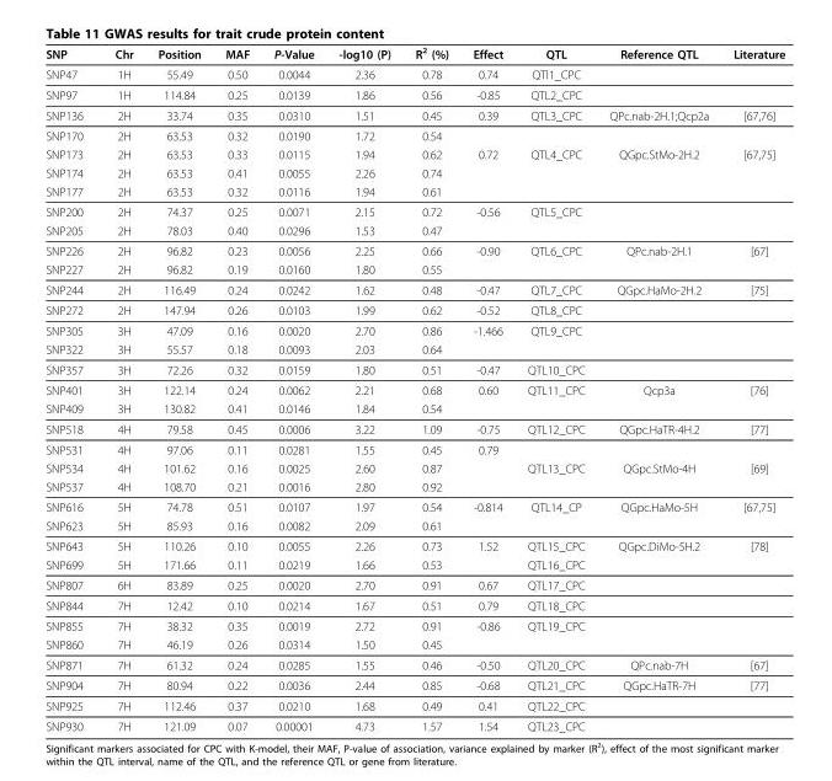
<table><thead><tr><td>SNP</td><td>Chr</td><td>Position</td><td>MAF</td><td>P-Value</td><td>-log10 (P)</td><td>R<sup>2</sup> (%)</td><td>Effect</td><td>QTL</td><td>Reference QTL</td><td>Literature</td></tr></thead><tbody><tr><td>SNP47</td><td>1H</td><td>55.49</td><td>0.50</td><td>0.0044</td><td>2.36</td><td>0.78</td><td>0.74</td><td>QTl1_CPC</td><td></td><td></td></tr><tr><td>SNP97</td><td>1H</td><td>114.84</td><td>0.25</td><td>0.0139</td><td>1.86</td><td>0.56</td><td>-0.85</td><td>QTL2_CPC</td><td></td><td></td></tr><tr><td>SNP136</td><td>2H</td><td>33.74</td><td>0.35</td><td>0.0310</td><td>1.51</td><td>0.45</td><td>0.39</td><td>QTL3_CPC</td><td>QPc.nab-2H.1;Qcp2a</td><td>[67,76]</td></tr><tr><td>SNP170</td><td>2H</td><td>63.53</td><td>0.32</td><td>0.0190</td><td>1.72</td><td>0.54</td><td></td><td></td><td></td><td></td></tr><tr><td>SNP173</td><td>2H</td><td>63.53</td><td>0.33</td><td>0.0115</td><td>1.94</td><td>0.62</td><td>0.72</td><td>QTL4_CPC</td><td>QGpc.StMo-2H.2</td><td>[67,75]</td></tr><tr><td>SNP174</td><td>2H</td><td>63.53</td><td>0.41</td><td>0.0055</td><td>2.26</td><td>0.74</td><td></td><td></td><td></td><td></td></tr><tr><td>SNP177</td><td>2H</td><td>63.53</td><td>0.32</td><td>0.0116</td><td>1.94</td><td>0.61</td><td></td><td></td><td></td><td></td></tr><tr><td>SNP200</td><td>2H</td><td>74.37</td><td>0.25</td><td>0.0071</td><td>2.15</td><td>0.72</td><td>-0.56</td><td>QTL5_CPC</td><td></td><td></td></tr><tr><td>SNP205</td><td>2H</td><td>78.03</td><td>0.40</td><td>0.0296</td><td>1.53</td><td>0.47</td><td></td><td></td><td></td><td></td></tr><tr><td>SNP226</td><td>2H</td><td>96.82</td><td>0.23</td><td>0.0056</td><td>2.25</td><td>0.66</td><td>-0.90</td><td>QTL6_CPC</td><td>QPc.nab-2H.1</td><td>[67]</td></tr><tr><td>SNP227</td><td>2H</td><td>96.82</td><td>0.19</td><td>0.0160</td><td>1.80</td><td>0.55</td><td></td><td></td><td></td><td></td></tr><tr><td>SNP244</td><td>2H</td><td>116.49</td><td>0.24</td><td>0.0242</td><td>1.62</td><td>0.48</td><td>-0.47</td><td>QTL7_CPC</td><td>QGpc.HaMo-2H.2</td><td>[75]</td></tr><tr><td>SNP272</td><td>2H</td><td>147.94</td><td>0.26</td><td>0.0103</td><td>1.99</td><td>0.62</td><td>-0.52</td><td>QTL8_CPC</td><td></td><td></td></tr><tr><td>SNP305</td><td>3H</td><td>47.09</td><td>0.16</td><td>0.0020</td><td>2.70</td><td>0.86</td><td>-1.466</td><td>QTL9_CPC</td><td></td><td></td></tr><tr><td>SNP322</td><td>3H</td><td>55.57</td><td>0.18</td><td>0.0093</td><td>2.03</td><td>0.64</td><td></td><td></td><td></td><td></td></tr><tr><td>SNP357</td><td>3H</td><td>72.26</td><td>0.32</td><td>0.0159</td><td>1.80</td><td>0.51</td><td>-0.47</td><td>QTL10_CPC</td><td></td><td></td></tr><tr><td>SNP401</td><td>3H</td><td>122.14</td><td>0.24</td><td>0.0062</td><td>2.21</td><td>0.68</td><td>0.60</td><td>QTL11_CPC</td><td>Qcp3a</td><td>[76]</td></tr><tr><td>SNP409</td><td>3H</td><td>130.82</td><td>0.41</td><td>0.0146</td><td>1.84</td><td>0.54</td><td></td><td></td><td></td><td></td></tr><tr><td>SNP518</td><td>4H</td><td>79.58</td><td>0.45</td><td>0.0006</td><td>3.22</td><td>1.09</td><td>-0.75</td><td>QTL12_CPC</td><td>QGpc.HaTR-4H.2</td><td>[77]</td></tr><tr><td>SNP531</td><td>4H</td><td>97.06</td><td>0.11</td><td>0.0281</td><td>1.55</td><td>0.45</td><td>0.79</td><td></td><td></td><td></td></tr><tr><td>SNP534</td><td>4H</td><td>101.62</td><td>0.16</td><td>0.0025</td><td>2.60</td><td>0.87</td><td></td><td>QTL13_CPC</td><td>QGpc.StMo-4H</td><td>[69]</td></tr><tr><td>SNP537</td><td>4H</td><td>108.70</td><td>0.21</td><td>0.0016</td><td>2.80</td><td>0.92</td><td></td><td></td><td></td><td></td></tr><tr><td>SNP616</td><td>5H</td><td>74.78</td><td>0.51</td><td>0.0107</td><td>1.97</td><td>0.54</td><td>-0.814</td><td>QTL14_CP</td><td>QGpc.HaMo-5H</td><td>[67,75]</td></tr><tr><td>SNP623</td><td>5H</td><td>85.93</td><td>0.16</td><td>0.0082</td><td>2.09</td><td>0.61</td><td></td><td></td><td></td><td></td></tr><tr><td>SNP643</td><td>5H</td><td>110.26</td><td>0.10</td><td>0.0055</td><td>2.26</td><td>0.73</td><td>1.52</td><td>QTL15_CPC</td><td>QGpc.DiMo-5H.2</td><td>[78]</td></tr><tr><td>SNP699</td><td>5H</td><td>171.66</td><td>0.11</td><td>0.0219</td><td>1.66</td><td>0.53</td><td></td><td>QTL16_CPC</td><td></td><td></td></tr><tr><td>SNP807</td><td>6H</td><td>83.89</td><td>0.25</td><td>0.0020</td><td>2.70</td><td>0.91</td><td>0.67</td><td>QTL17_CPC</td><td></td><td></td></tr><tr><td>SNP844</td><td>7H</td><td>12.42</td><td>0.10</td><td>0.0214</td><td>1.67</td><td>0.51</td><td>0.79</td><td>QTL18_CPC</td><td></td><td></td></tr><tr><td>SNP855</td><td>7H</td><td>38.32</td><td>0.35</td><td>0.0019</td><td>2.72</td><td>0.91</td><td>-0.86</td><td>QTL19_CPC</td><td></td><td></td></tr><tr><td>SNP860</td><td>7H</td><td>46.19</td><td>0.26</td><td>0.0314</td><td>1.50</td><td>0.45</td><td></td><td></td><td></td><td></td></tr><tr><td>SNP871</td><td>7H</td><td>61.32</td><td>0.24</td><td>0.0285</td><td>1.55</td><td>0.46</td><td>-0.50</td><td>QTL20_CPC</td><td>QPc.nab-7H</td><td>[67]</td></tr><tr><td>SNP904</td><td>7H</td><td>80.94</td><td>0.22</td><td>0.0036</td><td>2.44</td><td>0.85</td><td>-0.68</td><td>QTL21_CPC</td><td>QGpc.HaTR-7H</td><td>[77]</td></tr><tr><td>SNP925</td><td>7H</td><td>112.46</td><td>0.37</td><td>0.0210</td><td>1.68</td><td>0.49</td><td>0.41</td><td>QTL22_CPC</td><td></td><td></td></tr><tr><td>SNP930</td><td>7H</td><td>121.09</td><td>0.07</td><td>0.00001</td><td>4.73</td><td>1.57</td><td>1.54</td><td>QTL23_CPC</td><td></td><td></td></tr></tbody></table>